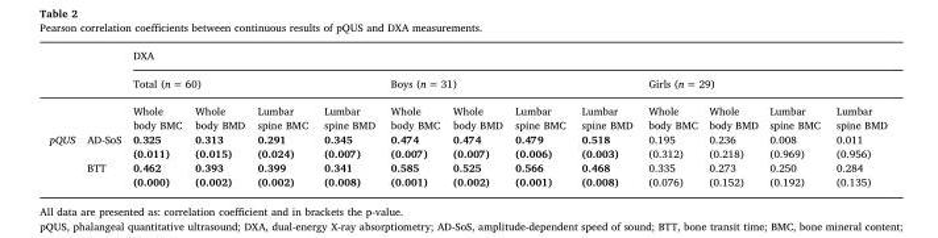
<table><thead><tr><td rowspan="2"></td><td rowspan="2"></td><td colspan="12">DXA</td></tr><tr><td colspan="4">Total (n = 60)</td><td colspan="4">Boys (n = 31)</td><td colspan="4">Girls (n = 29)</td></tr><tr><td colspan="2"></td><td>Whole body BMC</td><td>Whole body BMD</td><td>Lumbar spine BMC</td><td>Lumbar spine BMD</td><td>Whole body BMC</td><td>Whole body BMD</td><td>Lumbar spine BMC</td><td>Lumbar spine BMD</td><td>Whole body BMC</td><td>Whole body BMD</td><td>Lumbar spine BMC</td><td>Lumbar spine BMD</td></tr></thead><tbody><tr><td rowspan="2">pQUS</td><td>AD-SoS</td><td>0.325 (0.011)</td><td>0.313 (0.015)</td><td>0.291 (0.024)</td><td>0.345 (0.007)</td><td>0.474 (0.007)</td><td>0.474 (0.007)</td><td>0.479 (0.006)</td><td>0.518 (0.003)</td><td>0.195 (0.312)</td><td>0.236 (0.218)</td><td>0.008 (0.969)</td><td>0.011 (0.956)</td></tr><tr><td>BTT</td><td>0.462 (0.000)</td><td>0.393 (0.002)</td><td>0.399 (0.002)</td><td>0.341 (0.008)</td><td>0.585 (0.001)</td><td>0.525 (0.002)</td><td>0.566 (0.001)</td><td>0.468 (0.008)</td><td>0.335 (0.076)</td><td>0.273 (0.152)</td><td>0.250 (0.192)</td><td>0.284 (0.135)</td></tr></tbody></table>